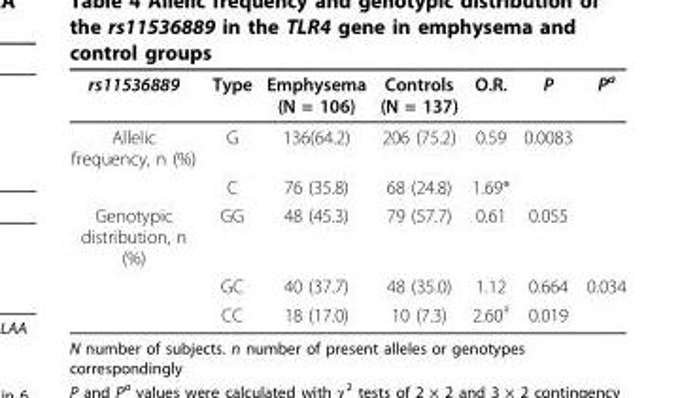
<table><thead><tr><td>rs11536889</td><td>Type</td><td>Emphysema (N = 106)</td><td>Controls (N = 137)</td><td>O.R.</td><td>P</td><td>P<sup>a</sup></td></tr></thead><tbody><tr><td rowspan="2">Allelic frequency, n (%)</td><td>G</td><td>136(64.2)</td><td>206 (75.2)</td><td>0.59</td><td>0.0083</td><td></td></tr><tr><td>C</td><td>76 (35.8)</td><td>68 (24.8)</td><td>1.69*</td><td></td><td></td></tr><tr><td rowspan="3">Genotypic distribution, n (%)</td><td>GG</td><td>48 (45.3)</td><td>79 (57.7)</td><td>0.61</td><td>0.055</td><td></td></tr><tr><td>GC</td><td>40 (37.7)</td><td>48 (35.0)</td><td>1.12</td><td>0.664</td><td>0.034</td></tr><tr><td>CC</td><td>18 (17.0)</td><td>10 (7.3)</td><td>2.60<sup>‡</sup></td><td>0.019</td><td></td></tr></tbody></table>